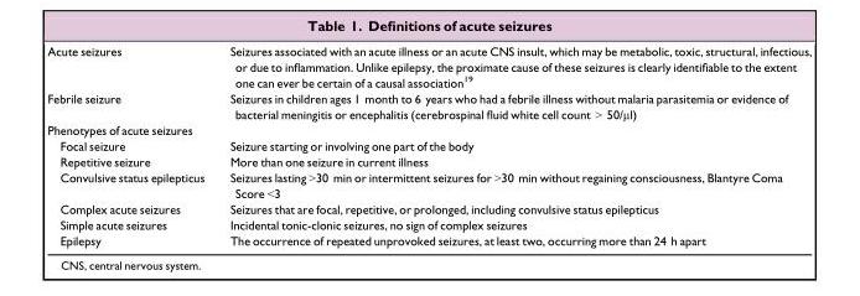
<table><tbody><tr><td>Acute seizures</td><td>Seizures associated with an acute illness or an acute CNS insult, which may be metabolic, toxic, structural, infectious, or due to inflammation. Unlike epilepsy, the proximate cause of these seizures is clearly identifiable to the extent one can ever be certain of a causal association<sup>19</sup></td></tr><tr><td>Febrile seizure</td><td>Seizures in children ages 1 month to 6 years who had a febrile illness without malaria parasitemia or evidence of bacterial meningitis or encephalitis (cerebrospinal fluid white cell count &gt; 50/μl)</td></tr><tr><td colspan="2">Phenotypes of acute seizures</td></tr><tr><td>Focal seizure</td><td>Seizure starting or involving one part of the body</td></tr><tr><td>Repetitive seizure</td><td>More than one seizure in current illness</td></tr><tr><td>Convulsive status epilepticus</td><td>Seizures lasting &gt;30 min or intermittent seizures for &gt;30 min without regaining consciousness, Blantyre Coma Score &lt;3</td></tr><tr><td>Complex acute seizures</td><td>Seizures that are focal, repetitive, or prolonged, including convulsive status epilepticus</td></tr><tr><td>Simple acute seizures</td><td>Incidental tonic-clonic seizures, no sign of complex seizures</td></tr><tr><td>Epilepsy</td><td>The occurrence of repeated unprovoked seizures, at least two, occurring more than 24 h apart</td></tr></tbody></table>